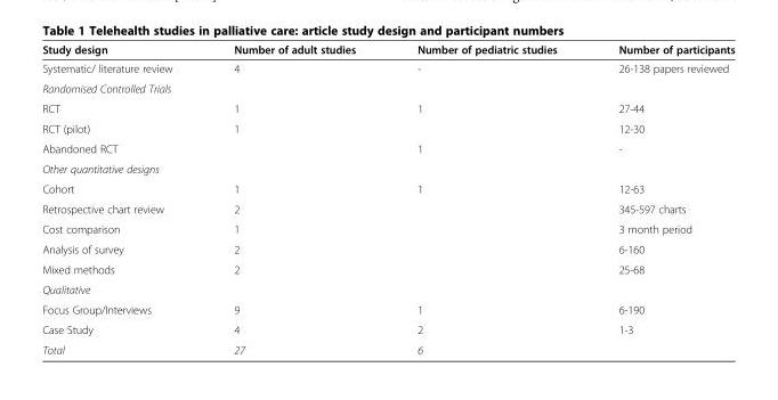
<table><thead><tr><td>Study design</td><td>Number of adult studies</td><td>Number of pediatric studies</td><td>Number of participants</td></tr></thead><tbody><tr><td>Systematic/ literature review</td><td>4</td><td>-</td><td>26-138 papers reviewed</td></tr><tr><td colspan="4">Randomised Controlled Trials</td></tr><tr><td>RCT</td><td>1</td><td>1</td><td>27-44</td></tr><tr><td>RCT (pilot)</td><td>1</td><td></td><td>12-30</td></tr><tr><td>Abandoned RCT</td><td></td><td>1</td><td>-</td></tr><tr><td colspan="4">Other quantitative designs</td></tr><tr><td>Cohort</td><td>1</td><td>1</td><td>12-63</td></tr><tr><td>Retrospective chart review</td><td>2</td><td></td><td>345-597 charts</td></tr><tr><td>Cost comparison</td><td>1</td><td></td><td>3 month period</td></tr><tr><td>Analysis of survey</td><td>2</td><td></td><td>6-160</td></tr><tr><td>Mixed methods</td><td>2</td><td></td><td>25-68</td></tr><tr><td colspan="4">Qualitative</td></tr><tr><td>Focus Group/Interviews</td><td>9</td><td>1</td><td>6-190</td></tr><tr><td>Case Study</td><td>4</td><td>2</td><td>1-3</td></tr><tr><td>Total</td><td>27</td><td>6</td><td></td></tr></tbody></table>